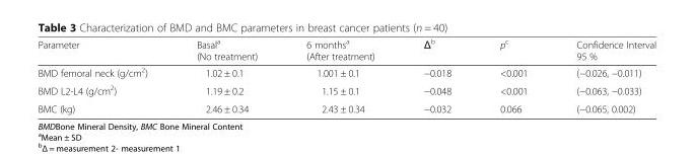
<table><thead><tr><td>Parameter</td><td>Basal<sup>a</sup> (No treatment)</td><td>6 months<sup>a</sup> (After treatment)</td><td>Δ<sup>b</sup></td><td>p<sup>c</sup></td><td>Confidence Interval 95 %</td></tr></thead><tbody><tr><td>BMD femoral neck (g/cm<sup>2</sup>)</td><td>1.02 ± 0.1</td><td>1.001 ± 0.1</td><td>−0.018</td><td>&lt;0.001</td><td>(−0.026, −0.011)</td></tr><tr><td>BMD L2-L4 (g/cm<sup>2</sup>)</td><td>1.19 ± 0.2</td><td>1.15 ± 0.1</td><td>−0.048</td><td>&lt;0.001</td><td>(−0.063, −0.033)</td></tr><tr><td>BMC (kg)</td><td>2.46 ± 0.34</td><td>2.43 ± 0.34</td><td>−0.032</td><td>0.066</td><td>(−0.065, 0.002)</td></tr></tbody></table>